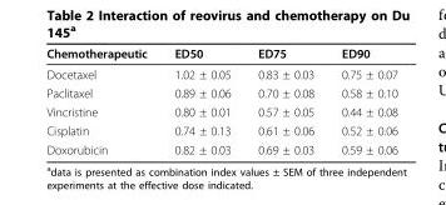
<table><thead><tr><td>Chemotherapeutic</td><td>ED50</td><td>ED75</td><td>ED90</td></tr></thead><tbody><tr><td>Docetaxel</td><td>1.02 ± 0.05</td><td>0.83 ± 0.03</td><td>0.75 ± 0.07</td></tr><tr><td>Paclitaxel</td><td>0.89 ± 0.06</td><td>0.70 ± 0.08</td><td>0.58 ± 0.10</td></tr><tr><td>Vincristine</td><td>0.80 ± 0.01</td><td>0.57 ± 0.05</td><td>0.44 ± 0.08</td></tr><tr><td>Cisplatin</td><td>0.74 ± 0.13</td><td>0.61 ± 0.06</td><td>0.52 ± 0.06</td></tr><tr><td>Doxorubicin</td><td>0.82 ± 0.03</td><td>0.69 ± 0.03</td><td>0.59 ± 0.06</td></tr></tbody></table>